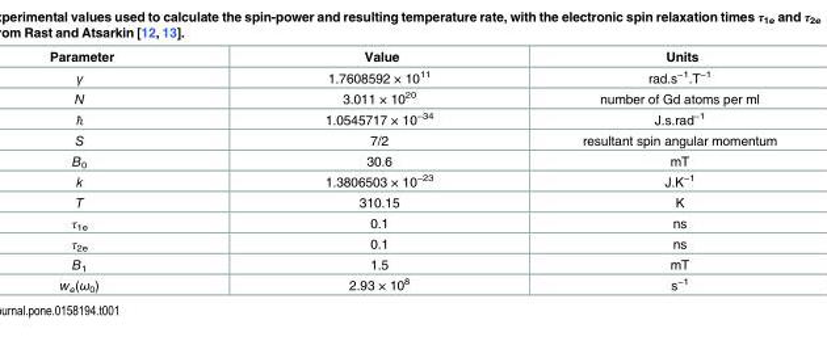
<table><thead><tr><td>Parameter</td><td>Value</td><td>Units</td></tr></thead><tbody><tr><td>γ</td><td>1.7608592 × 10<sup>11</sup></td><td>rad.s<sup>−1</sup>.T<sup>−1</sup></td></tr><tr><td>N</td><td>3.011 × 10<sup>20</sup></td><td>number of Gd atoms per ml</td></tr><tr><td>ℏ</td><td>1.0545717 × 10<sup>−34</sup></td><td>J.s.rad<sup>−1</sup></td></tr><tr><td>S</td><td>7/2</td><td>resultant spin angular momentum</td></tr><tr><td>B<sub>0</sub></td><td>30.6</td><td>mT</td></tr><tr><td>k</td><td>1.3806503 × 10<sup>−23</sup></td><td>J.K<sup>−1</sup></td></tr><tr><td>T</td><td>310.15</td><td>K</td></tr><tr><td>τ<sub>1e</sub></td><td>0.1</td><td>ns</td></tr><tr><td>τ<sub>2e</sub></td><td>0.1</td><td>ns</td></tr><tr><td>B<sub>1</sub></td><td>1.5</td><td>mT</td></tr><tr><td>w<sub>e</sub>(ω<sub>0</sub>)</td><td>2.93 × 10<sup>8</sup></td><td>s<sup>−1</sup></td></tr></tbody></table>